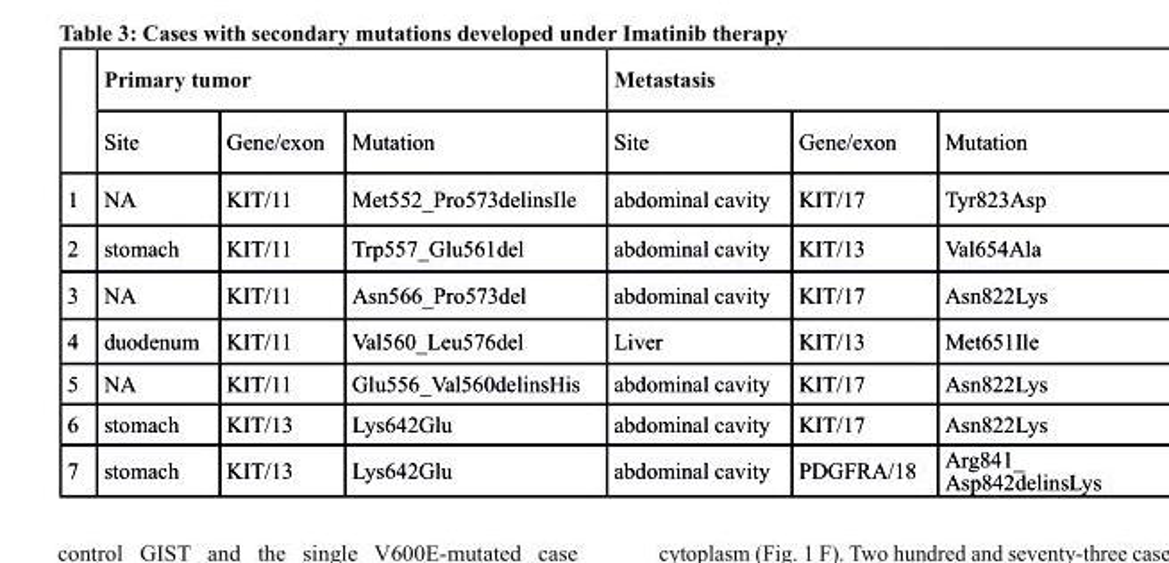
<table><thead><tr><td rowspan="2"></td><td colspan="3">Primary tumor</td><td colspan="3">Metastasis</td></tr><tr><td>Site</td><td>Gene/exon</td><td>Mutation</td><td>Site</td><td>Gene/exon</td><td>Mutation</td></tr></thead><tbody><tr><td>1</td><td>NA</td><td>KIT/11</td><td>Met552_Pro573delinsIle</td><td>abdominal cavity</td><td>KIT/17</td><td>Tyr823Asp</td></tr><tr><td>2</td><td>stomach</td><td>KIT/11</td><td>Trp557_Glu561del</td><td>abdominal cavity</td><td>KIT/13</td><td>Val654Ala</td></tr><tr><td>3</td><td>NA</td><td>KIT/11</td><td>Asn566_Pro573del</td><td>abdominal cavity</td><td>KIT/17</td><td>Asn822Lys</td></tr><tr><td>4</td><td>duodenum</td><td>KIT/11</td><td>Val560_Leu576del</td><td>Liver</td><td>KIT/13</td><td>Met651Ile</td></tr><tr><td>5</td><td>NA</td><td>KIT/11</td><td>Glu556_Val560delinsHis</td><td>abdominal cavity</td><td>KIT/17</td><td>Asn822Lys</td></tr><tr><td>6</td><td>stomach</td><td>KIT/13</td><td>Lys642Glu</td><td>abdominal cavity</td><td>KIT/17</td><td>Asn822Lys</td></tr><tr><td>7</td><td>stomach</td><td>KIT/13</td><td>Lys642Glu</td><td>abdominal cavity</td><td>PDGFRA/18</td><td>Arg841_ Asp842delinsLys</td></tr></tbody></table>